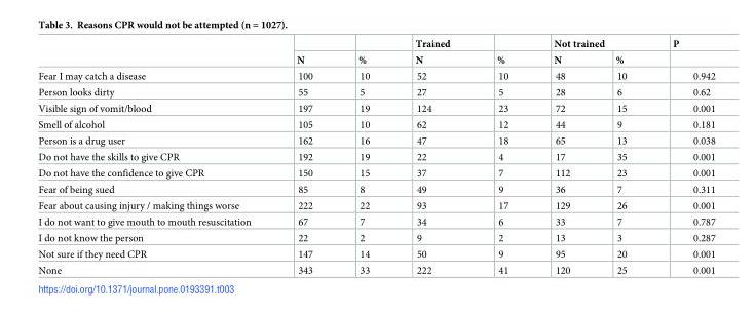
<table><thead><tr><td rowspan="2"></td><td rowspan="2">N</td><td rowspan="2">%</td><td rowspan="2">Trained N</td><td rowspan="2">%</td><td colspan="2">Not trained</td><td rowspan="2">P</td></tr><tr><td>N</td><td>%</td></tr></thead><tbody><tr><td>Fear I may catch a disease</td><td>100</td><td>10</td><td>52</td><td>10</td><td>48</td><td>10</td><td>0.942</td></tr><tr><td>Person looks dirty</td><td>55</td><td>5</td><td>27</td><td>5</td><td>28</td><td>6</td><td>0.62</td></tr><tr><td>Visible sign of vomit/blood</td><td>197</td><td>19</td><td>124</td><td>23</td><td>72</td><td>15</td><td>0.001</td></tr><tr><td>Smell of alcohol</td><td>105</td><td>10</td><td>62</td><td>12</td><td>44</td><td>9</td><td>0.181</td></tr><tr><td>Person is a drug user</td><td>162</td><td>16</td><td>47</td><td>18</td><td>65</td><td>13</td><td>0.038</td></tr><tr><td>Do not have the skills to give CPR</td><td>192</td><td>19</td><td>22</td><td>4</td><td>17</td><td>35</td><td>0.001</td></tr><tr><td>Do not have the confidence to give CPR</td><td>150</td><td>15</td><td>37</td><td>7</td><td>112</td><td>23</td><td>0.001</td></tr><tr><td>Fear of being sued</td><td>85</td><td>8</td><td>49</td><td>9</td><td>36</td><td>7</td><td>0.311</td></tr><tr><td>Fear about causing injury / making things worse</td><td>222</td><td>22</td><td>93</td><td>17</td><td>129</td><td>26</td><td>0.001</td></tr><tr><td>I do not want to give mouth to mouth resuscitation</td><td>67</td><td>7</td><td>34</td><td>6</td><td>33</td><td>7</td><td>0.787</td></tr><tr><td>I do not know the person</td><td>22</td><td>2</td><td>9</td><td>2</td><td>13</td><td>3</td><td>0.287</td></tr><tr><td>Not sure if they need CPR</td><td>147</td><td>14</td><td>50</td><td>9</td><td>95</td><td>20</td><td>0.001</td></tr><tr><td>None</td><td>343</td><td>33</td><td>222</td><td>41</td><td>120</td><td>25</td><td>0.001</td></tr></tbody></table>